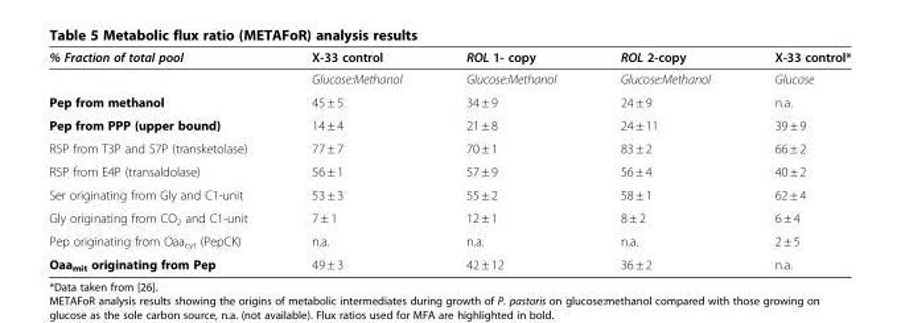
<table><thead><tr><td>% Fraction of total pool</td><td>X-33 control</td><td>ROL 1- copy</td><td>ROL 2-copy</td><td>X-33 control*</td></tr></thead><tbody><tr><td></td><td>Glucose:Methanol</td><td>Glucose:Methanol</td><td>Glucose:Methanol</td><td>Glucose</td></tr><tr><td>Pep from methanol</td><td>45 ± 5</td><td>34 ± 9</td><td>24 ± 9</td><td>n.a.</td></tr><tr><td>Pep from PPP (upper bound)</td><td>14 ± 4</td><td>21 ± 8</td><td>24 ± 11</td><td>39 ± 9</td></tr><tr><td>R5P from T3P and S7P (transketolase)</td><td>77 ± 7</td><td>70 ± 1</td><td>83 ± 2</td><td>66 ± 2</td></tr><tr><td>R5P from E4P (transaldolase)</td><td>56 ± 1</td><td>57 ± 9</td><td>56 ± 4</td><td>40 ± 2</td></tr><tr><td>Ser originating from Gly and C1-unit</td><td>53 ± 3</td><td>55 ± 2</td><td>58 ± 1</td><td>62 ± 4</td></tr><tr><td>Gly originating from CO<sub>2</sub> and C1-unit</td><td>7 ± 1</td><td>12 ± 1</td><td>8 ± 2</td><td>6 ± 4</td></tr><tr><td>Pep originating from Oaa<sub>cyt</sub> (PepCK)</td><td>n.a.</td><td>n.a.</td><td>n.a.</td><td>2 ± 5</td></tr><tr><td>Oaa<sub>mit</sub> originating from Pep</td><td>49 ± 3</td><td>42 ± 12</td><td>36 ± 2</td><td>n.a.</td></tr></tbody></table>